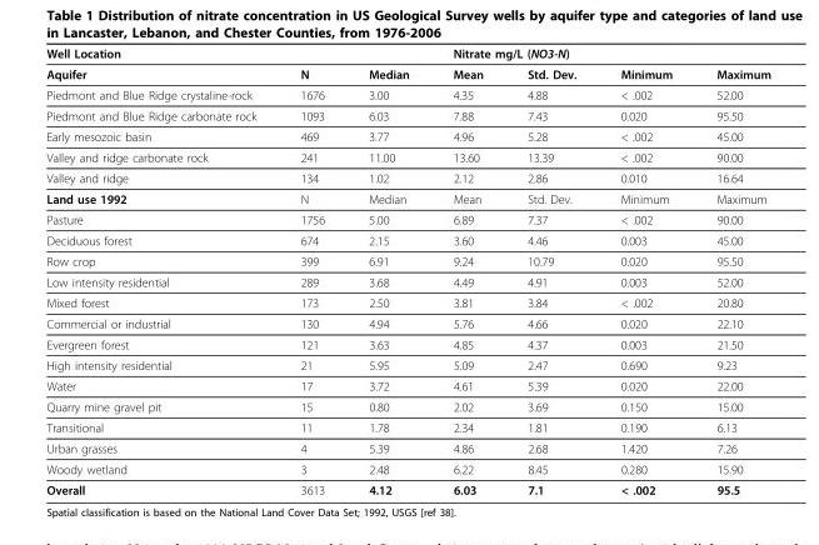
<table><thead><tr><td colspan="3">Well Location</td><td colspan="4">Nitrate mg/L (NO3-N)</td></tr><tr><td>Aquifer</td><td>N</td><td>Median</td><td>Mean</td><td>Std. Dev.</td><td>Minimum</td><td>Maximum</td></tr></thead><tbody><tr><td>Piedmont and Blue Ridge crystaline-rock</td><td>1676</td><td>3.00</td><td>4.35</td><td>4.88</td><td>&lt; .002</td><td>52.00</td></tr><tr><td>Piedmont and Blue Ridge carbonate rock</td><td>1093</td><td>6.03</td><td>7.88</td><td>7.43</td><td>0.020</td><td>95.50</td></tr><tr><td>Early mesozoic basin</td><td>469</td><td>3.77</td><td>4.96</td><td>5.28</td><td>&lt; .002</td><td>45.00</td></tr><tr><td>Valley and ridge carbonate rock</td><td>241</td><td>11.00</td><td>13.60</td><td>13.39</td><td>&lt; .002</td><td>90.00</td></tr><tr><td>Valley and ridge</td><td>134</td><td>1.02</td><td>2.12</td><td>2.86</td><td>0.010</td><td>16.64</td></tr><tr><td>Land use 1992</td><td>N</td><td>Median</td><td>Mean</td><td>Std. Dev.</td><td>Minimum</td><td>Maximum</td></tr><tr><td>Pasture</td><td>1756</td><td>5.00</td><td>6.89</td><td>7.37</td><td>&lt; .002</td><td>90.00</td></tr><tr><td>Deciduous forest</td><td>674</td><td>2.15</td><td>3.60</td><td>4.46</td><td>0.003</td><td>45.00</td></tr><tr><td>Row crop</td><td>399</td><td>6.91</td><td>9.24</td><td>10.79</td><td>0.020</td><td>95.50</td></tr><tr><td>Low intensity residential</td><td>289</td><td>3.68</td><td>4.49</td><td>4.91</td><td>0.003</td><td>52.00</td></tr><tr><td>Mixed forest</td><td>173</td><td>2.50</td><td>3.81</td><td>3.84</td><td>&lt; .002</td><td>20.80</td></tr><tr><td>Commercial or industrial</td><td>130</td><td>4.94</td><td>5.76</td><td>4.66</td><td>0.020</td><td>22.10</td></tr><tr><td>Evergreen forest</td><td>121</td><td>3.63</td><td>4.85</td><td>4.37</td><td>0.003</td><td>21.50</td></tr><tr><td>High intensity residential</td><td>21</td><td>5.95</td><td>5.09</td><td>2.47</td><td>0.690</td><td>9.23</td></tr><tr><td>Water</td><td>17</td><td>3.72</td><td>4.61</td><td>5.39</td><td>0.020</td><td>22.00</td></tr><tr><td>Quarry mine gravel pit</td><td>15</td><td>0.80</td><td>2.02</td><td>3.69</td><td>0.150</td><td>15.00</td></tr><tr><td>Transitional</td><td>11</td><td>1.78</td><td>2.34</td><td>1.81</td><td>0.190</td><td>6.13</td></tr><tr><td>Urban grasses</td><td>4</td><td>5.39</td><td>4.86</td><td>2.68</td><td>1.420</td><td>7.26</td></tr><tr><td>Woody wetland</td><td>3</td><td>2.48</td><td>6.22</td><td>8.45</td><td>0.280</td><td>15.90</td></tr><tr><td>Overall</td><td>3613</td><td>4.12</td><td>6.03</td><td>7.1</td><td>&lt; .002</td><td>95.5</td></tr></tbody></table>